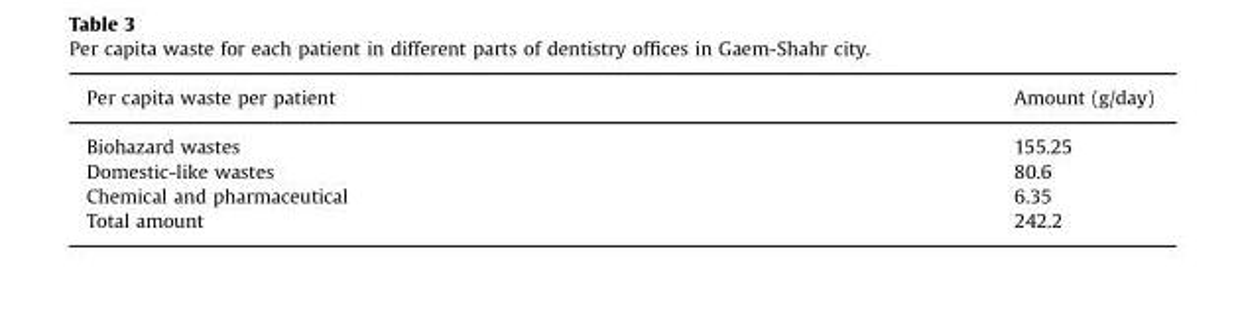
<table><thead><tr><td>Per capita waste per patient</td><td>Amount (g/day)</td></tr></thead><tbody><tr><td>Biohazard wastes</td><td>155.25</td></tr><tr><td>Domestic-like wastes</td><td>80.6</td></tr><tr><td>Chemical and pharmaceutical</td><td>6.35</td></tr><tr><td>Total amount</td><td>242.2</td></tr></tbody></table>